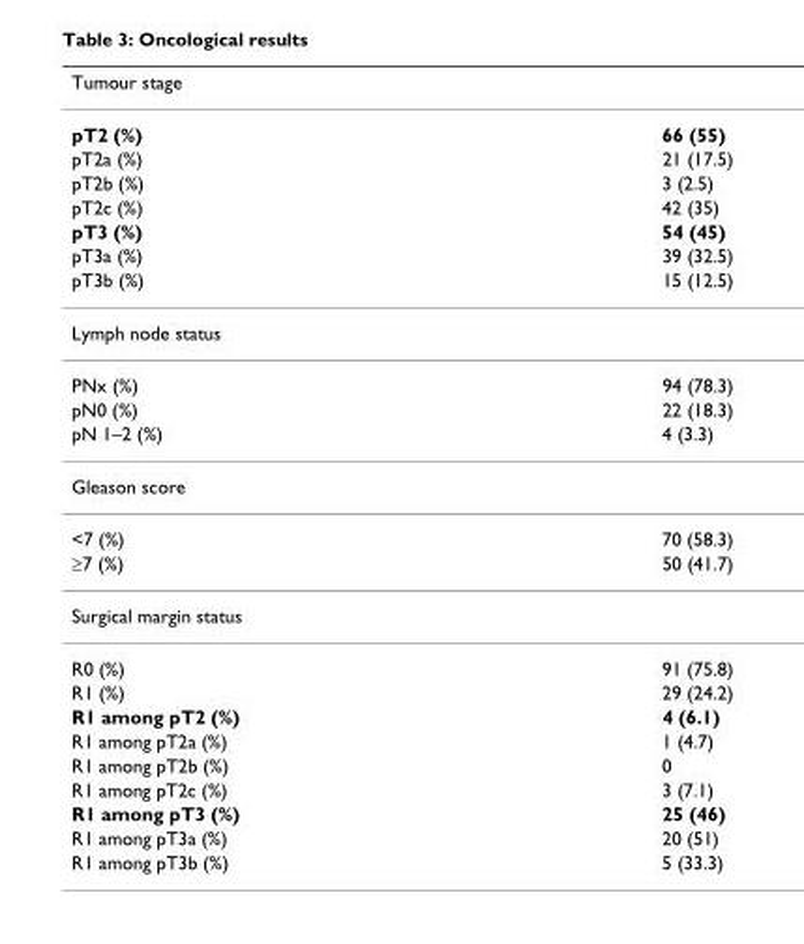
<table><thead><tr><td>Tumour stage</td><td></td></tr></thead><tbody><tr><td>pT2 (%)</td><td>66 (55)</td></tr><tr><td>pT2a (%)</td><td>21 (17.5)</td></tr><tr><td>pT2b (%)</td><td>3 (2.5)</td></tr><tr><td>pT2c (%)</td><td>42 (35)</td></tr><tr><td>pT3 (%)</td><td>54 (45)</td></tr><tr><td>pT3a (%)</td><td>39 (32.5)</td></tr><tr><td>pT3b (%)</td><td>15 (12.5)</td></tr><tr><td colspan="2">Lymph node status</td></tr><tr><td>PNx (%)</td><td>94 (78.3)</td></tr><tr><td>pN0 (%)</td><td>22 (18.3)</td></tr><tr><td>pN 1–2 (%)</td><td>4 (3.3)</td></tr><tr><td colspan="2">Gleason score</td></tr><tr><td>&lt;7 (%)</td><td>70 (58.3)</td></tr><tr><td>≥7 (%)</td><td>50 (41.7)</td></tr><tr><td colspan="2">Surgical margin status</td></tr><tr><td>R0 (%)</td><td>91 (75.8)</td></tr><tr><td>R1 (%)</td><td>29 (24.2)</td></tr><tr><td>R1 among pT2 (%)</td><td>4 (6.1)</td></tr><tr><td>R1 among pT2a (%)</td><td>1 (4.7)</td></tr><tr><td>R1 among pT2b (%)</td><td>0</td></tr><tr><td>R1 among pT2c (%)</td><td>3 (7.1)</td></tr><tr><td>R1 among pT3 (%)</td><td>25 (46)</td></tr><tr><td>R1 among pT3a (%)</td><td>20 (51)</td></tr><tr><td>R1 among pT3b (%)</td><td>5 (33.3)</td></tr></tbody></table>